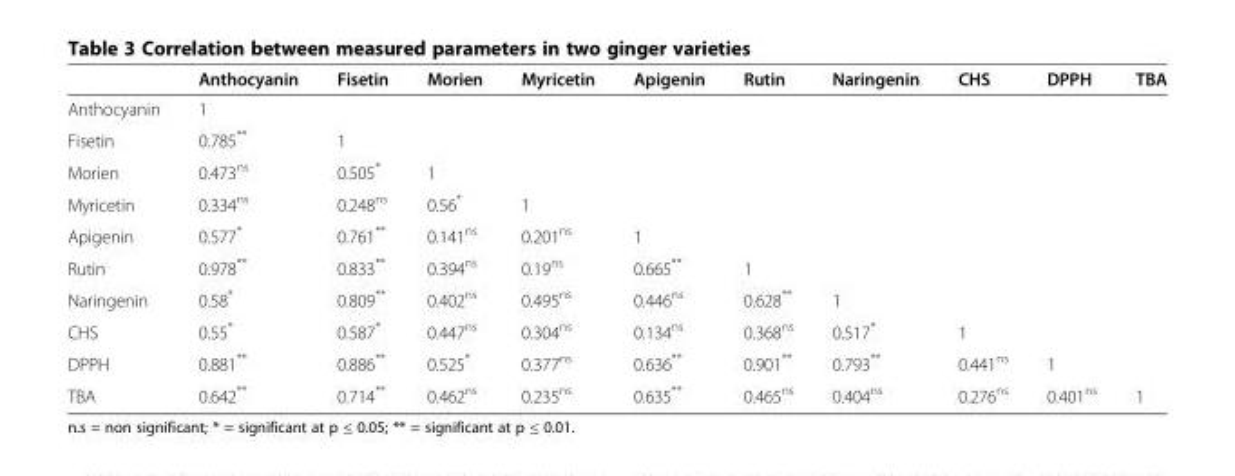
<table><thead><tr><td></td><td>Anthocyanin</td><td>Fisetin</td><td>Morien</td><td>Myricetin</td><td>Apigenin</td><td>Rutin</td><td>Naringenin</td><td>CHS</td><td>DPPH</td><td>TBA</td></tr></thead><tbody><tr><td>Anthocyanin</td><td>1</td><td></td><td></td><td></td><td></td><td></td><td></td><td></td><td></td><td></td></tr><tr><td>Fisetin</td><td>0.785**</td><td>1</td><td></td><td></td><td></td><td></td><td></td><td></td><td></td><td></td></tr><tr><td>Morien</td><td>0.473<sup>ns</sup></td><td>0.505*</td><td>1</td><td></td><td></td><td></td><td></td><td></td><td></td><td></td></tr><tr><td>Myricetin</td><td>0.334<sup>ns</sup></td><td>0.248<sup>ns</sup></td><td>0.56*</td><td>1</td><td></td><td></td><td></td><td></td><td></td><td></td></tr><tr><td>Apigenin</td><td>0.577*</td><td>0.761**</td><td>0.141<sup>ns</sup></td><td>0.201<sup>ns</sup></td><td>1</td><td></td><td></td><td></td><td></td><td></td></tr><tr><td>Rutin</td><td>0.978**</td><td>0.833**</td><td>0.394<sup>ns</sup></td><td>0.19<sup>ns</sup></td><td>0.665**</td><td>1</td><td></td><td></td><td></td><td></td></tr><tr><td>Naringenin</td><td>0.58*</td><td>0.809**</td><td>0.402<sup>ns</sup></td><td>0.495<sup>ns</sup></td><td>0.446<sup>ns</sup></td><td>0.628**</td><td>1</td><td></td><td></td><td></td></tr><tr><td>CHS</td><td>0.55*</td><td>0.587*</td><td>0.447<sup>ns</sup></td><td>0.304<sup>ns</sup></td><td>0.134<sup>ns</sup></td><td>0.368<sup>ns</sup></td><td>0.517*</td><td>1</td><td></td><td></td></tr><tr><td>DPPH</td><td>0.881**</td><td>0.886**</td><td>0.525*</td><td>0.377<sup>ns</sup></td><td>0.636**</td><td>0.901**</td><td>0.793**</td><td>0.441<sup>ns</sup></td><td>1</td><td></td></tr><tr><td>TBA</td><td>0.642**</td><td>0.714**</td><td>0.462<sup>ns</sup></td><td>0.235<sup>ns</sup></td><td>0.635**</td><td>0.465<sup>ns</sup></td><td>0.404<sup>ns</sup></td><td>0.276<sup>ns</sup></td><td>0.401<sup>ns</sup></td><td>1</td></tr></tbody></table>